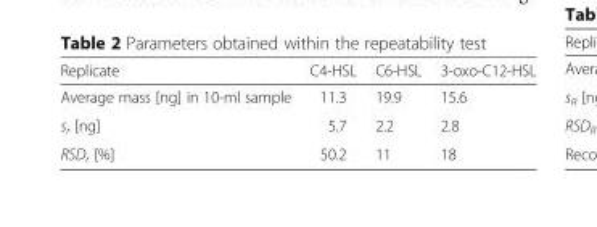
<table><thead><tr><td>Replicate</td><td>C4-HSL</td><td>C6-HSL</td><td>3-oxo-C12-HSL</td></tr></thead><tbody><tr><td>Average mass [ng] in 10-ml sample</td><td>11.3</td><td>19.9</td><td>15.6</td></tr><tr><td>s<sub>r</sub> [ng]</td><td>5.7</td><td>2.2</td><td>2.8</td></tr><tr><td>RSD<sub>r</sub> [%]</td><td>50.2</td><td>11</td><td>18</td></tr></tbody></table>